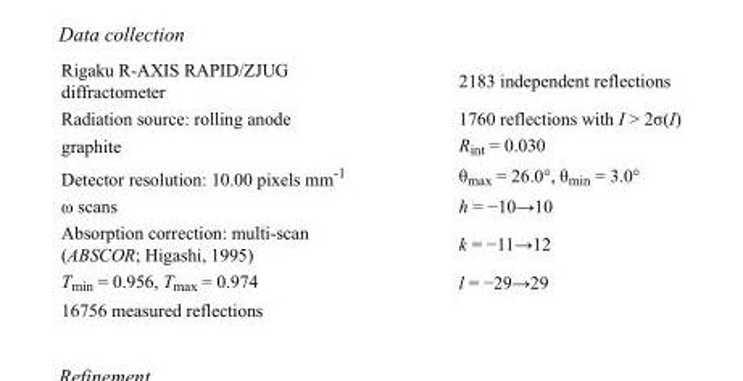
<table><tbody><tr><td>Rigaku R-AXIS RAPID/ZJUG diffractometer</td><td>2183 independent reflections</td></tr><tr><td>Radiation source: rolling anode</td><td>1760 reflections with I &gt; 2σ(I)</td></tr><tr><td>graphite</td><td>R<sub>int</sub> = 0.030</td></tr><tr><td>Detector resolution: 10.00 pixels mm<sup>-1</sup></td><td>θ<sub>max</sub> = 26.0°, θ<sub>min</sub> = 3.0°</td></tr><tr><td>ω scans</td><td>h = −10→10</td></tr><tr><td>Absorption correction: multi-scan (ABSCOR; Higashi, 1995)</td><td>k = −11→12</td></tr><tr><td>T<sub>min</sub> = 0.956, T<sub>max</sub> = 0.974</td><td>l = −29→29</td></tr><tr><td>16756 measured reflections</td><td></td></tr></tbody></table>